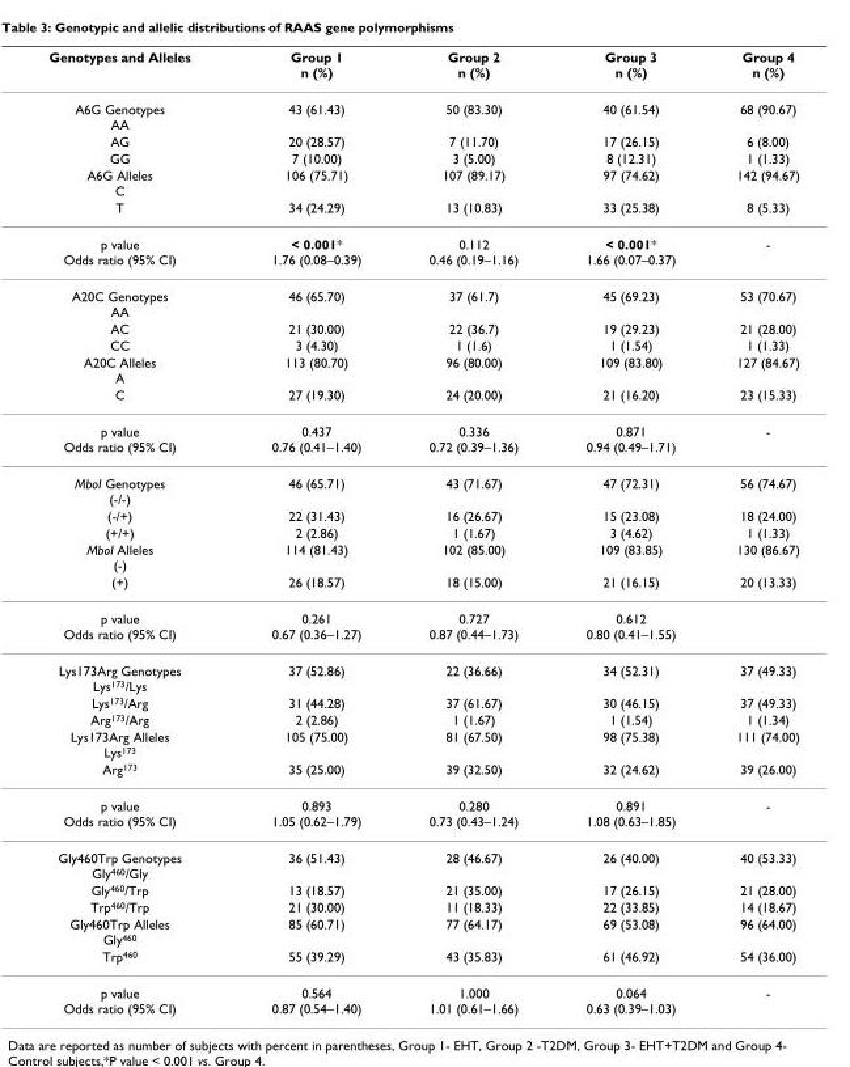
<table><thead><tr><td>Genotypes and Alleles</td><td>Group 1 n (%)</td><td>Group 2 n (%)</td><td>Group 3 n (%)</td><td>Group 4 n (%)</td></tr></thead><tbody><tr><td>A6G Genotypes AA</td><td>43 (61.43)</td><td>50 (83.30)</td><td>40 (61.54)</td><td>68 (90.67)</td></tr><tr><td>AG</td><td>20 (28.57)</td><td>7 (11.70)</td><td>17 (26.15)</td><td>6 (8.00)</td></tr><tr><td>GG</td><td>7 (10.00)</td><td>3 (5.00)</td><td>8 (12.31)</td><td>1 (1.33)</td></tr><tr><td>A6G Alleles C</td><td>106 (75.71)</td><td>107 (89.17)</td><td>97 (74.62)</td><td>142 (94.67)</td></tr><tr><td>T</td><td>34 (24.29)</td><td>13 (10.83)</td><td>33 (25.38)</td><td>8 (5.33)</td></tr><tr><td>p value Odds ratio (95% CI)</td><td>&lt; 0.001* 1.76 (0.08–0.39)</td><td>0.112 0.46 (0.19–1.16)</td><td>&lt; 0.001* 1.66 (0.07–0.37)</td><td>-</td></tr><tr><td>A20C Genotypes AA</td><td>46 (65.70)</td><td>37 (61.7)</td><td>45 (69.23)</td><td>53 (70.67)</td></tr><tr><td>AC</td><td>21 (30.00)</td><td>22 (36.7)</td><td>19 (29.23)</td><td>21 (28.00)</td></tr><tr><td>CC</td><td>3 (4.30)</td><td>1 (1.6)</td><td>1 (1.54)</td><td>1 (1.33)</td></tr><tr><td>A20C Alleles A</td><td>113 (80.70)</td><td>96 (80.00)</td><td>109 (83.80)</td><td>127 (84.67)</td></tr><tr><td>C</td><td>27 (19.30)</td><td>24 (20.00)</td><td>21 (16.20)</td><td>23 (15.33)</td></tr><tr><td>p value Odds ratio (95% CI)</td><td>0.437 0.76 (0.41–1.40)</td><td>0.336 0.72 (0.39–1.36)</td><td>0.871 0.94 (0.49–1.71)</td><td>-</td></tr><tr><td>MboI Genotypes (-/-)</td><td>46 (65.71)</td><td>43 (71.67)</td><td>47 (72.31)</td><td>56 (74.67)</td></tr><tr><td>(-/+)</td><td>22 (31.43)</td><td>16 (26.67)</td><td>15 (23.08)</td><td>18 (24.00)</td></tr><tr><td>(+/+)</td><td>2 (2.86)</td><td>1 (1.67)</td><td>3 (4.62)</td><td>1 (1.33)</td></tr><tr><td>MboI Alleles (-)</td><td>114 (81.43)</td><td>102 (85.00)</td><td>109 (83.85)</td><td>130 (86.67)</td></tr><tr><td>(+)</td><td>26 (18.57)</td><td>18 (15.00)</td><td>21 (16.15)</td><td>20 (13.33)</td></tr><tr><td>p value Odds ratio (95% CI)</td><td>0.261 0.67 (0.36–1.27)</td><td>0.727 0.87 (0.44–1.73)</td><td>0.612 0.80 (0.41–1.55)</td><td></td></tr><tr><td>Lys173Arg Genotypes Lys<sup>173</sup>/Lys</td><td>37 (52.86)</td><td>22 (36.66)</td><td>34 (52.31)</td><td>37 (49.33)</td></tr><tr><td>Lys<sup>173</sup>/Arg</td><td>31 (44.28)</td><td>37 (61.67)</td><td>30 (46.15)</td><td>37 (49.33)</td></tr><tr><td>Arg<sup>173</sup>/Arg</td><td>2 (2.86)</td><td>1 (1.67)</td><td>1 (1.54)</td><td>1 (1.34)</td></tr><tr><td>Lys173Arg Alleles Lys<sup>173</sup></td><td>105 (75.00)</td><td>81 (67.50)</td><td>98 (75.38)</td><td>111 (74.00)</td></tr><tr><td>Arg<sup>173</sup></td><td>35 (25.00)</td><td>39 (32.50)</td><td>32 (24.62)</td><td>39 (26.00)</td></tr><tr><td>p value Odds ratio (95% CI)</td><td>0.893 1.05 (0.62–1.79)</td><td>0.280 0.73 (0.43–1.24)</td><td>0.891 1.08 (0.63–1.85)</td><td>-</td></tr><tr><td>Gly460Trp Genotypes Gly<sup>460</sup>/Gly</td><td>36 (51.43)</td><td>28 (46.67)</td><td>26 (40.00)</td><td>40 (53.33)</td></tr><tr><td>Gly<sup>460</sup>/Trp</td><td>13 (18.57)</td><td>21 (35.00)</td><td>17 (26.15)</td><td>21 (28.00)</td></tr><tr><td>Trp<sup>460</sup>/Trp</td><td>21 (30.00)</td><td>11 (18.33)</td><td>22 (33.85)</td><td>14 (18.67)</td></tr><tr><td>Gly460Trp Alleles Gly<sup>460</sup></td><td>85 (60.71)</td><td>77 (64.17)</td><td>69 (53.08)</td><td>96 (64.00)</td></tr><tr><td>Trp<sup>460</sup></td><td>55 (39.29)</td><td>43 (35.83)</td><td>61 (46.92)</td><td>54 (36.00)</td></tr><tr><td>p value Odds ratio (95% CI)</td><td>0.564 0.87 (0.54–1.40)</td><td>1.000 1.01 (0.61–1.66)</td><td>0.064 0.63 (0.39–1.03)</td><td>-</td></tr></tbody></table>